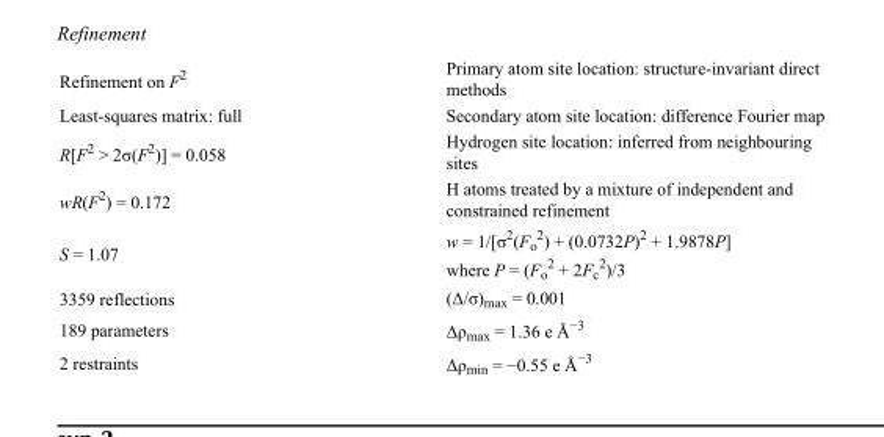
<table><tbody><tr><td>Refinement on F<sup>2</sup></td><td>Primary atom site location: structure-invariant direct methods</td></tr><tr><td>Least-squares matrix: full</td><td>Secondary atom site location: difference Fourier map</td></tr><tr><td>R[F<sup>2</sup> &gt; 2σ(F<sup>2</sup>)] = 0.058</td><td>Hydrogen site location: inferred from neighbouring sites</td></tr><tr><td>wR(F<sup>2</sup>) = 0.172</td><td>H atoms treated by a mixture of independent and constrained refinement</td></tr><tr><td>S = 1.07</td><td>w = 1/[σ<sup>2</sup>(F<sub>o</sub> <sup>2</sup>) + (0.0732P)<sup>2</sup> + 1.9878P] where P = (F<sub>o</sub> <sup>2</sup> + 2F<sub>c</sub> <sup>2</sup>)/3</td></tr><tr><td>3359 reflections</td><td>(Δ/σ)<sub>max</sub> = 0.001</td></tr><tr><td>189 parameters</td><td>Δρ<sub>max</sub> = 1.36 e Å<sup>−3</sup></td></tr><tr><td>2 restraints</td><td>Δρ<sub>min</sub> = −0.55 e Å<sup>−3</sup></td></tr></tbody></table>